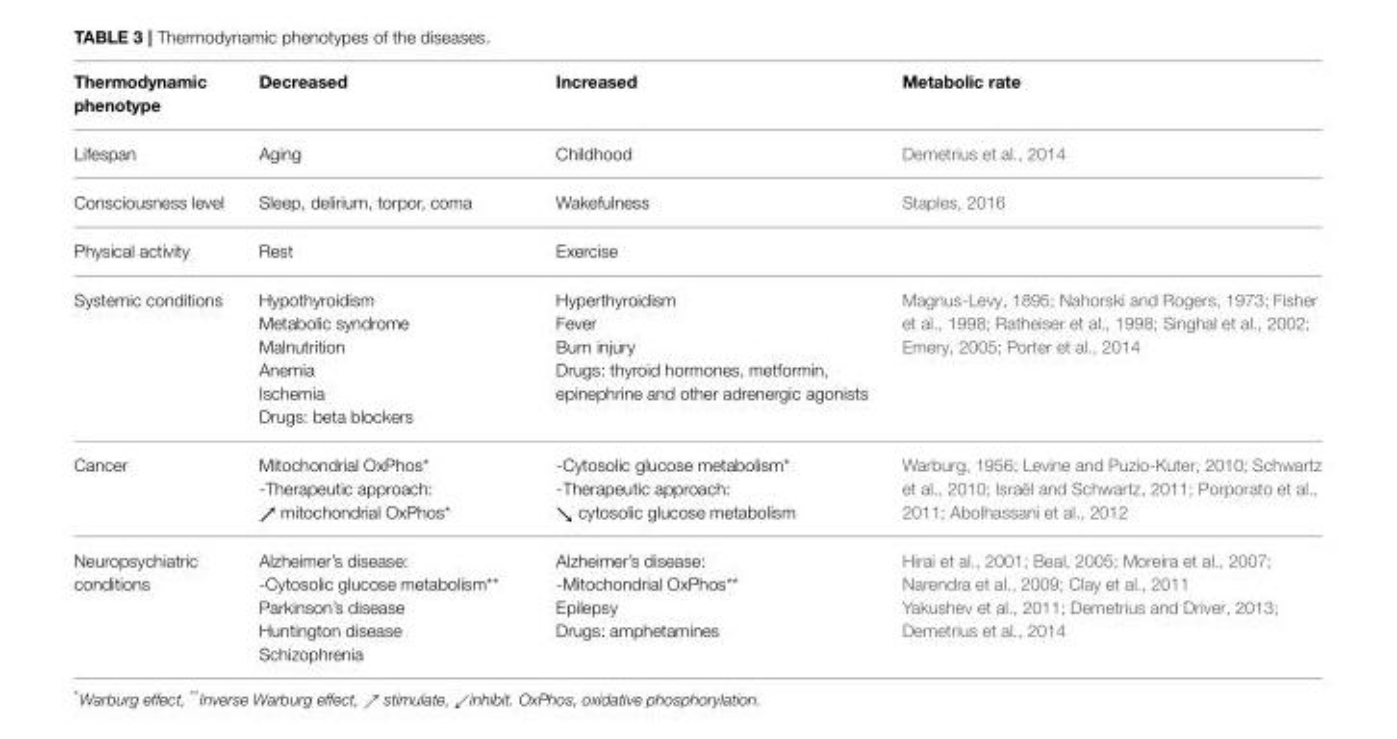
<table><thead><tr><td>Thermodynamic phenotype</td><td>Decreased</td><td>Increased</td><td>Metabolic rate</td></tr></thead><tbody><tr><td>Lifespan</td><td>Aging</td><td>Childhood</td><td>Demetrius et al., 2014</td></tr><tr><td>Consciousness level</td><td>Sleep, delirium, torpor, coma</td><td>Wakefulness</td><td>Staples, 2016</td></tr><tr><td>Physical activity</td><td>Rest</td><td>Exercise</td><td></td></tr><tr><td>Systemic conditions</td><td>Hypothyroidism Metabolic syndrome Malnutrition Anemia Ischemia Drugs: beta blockers</td><td>Hyperthyroidism Fever Burn injury Drugs: thyroid hormones, metformin, epinephrine and other adrenergic agonists</td><td>Magnus-Levy, 1895; Nahorski and Rogers, 1973; Fisher et al., 1998; Ratheiser et al., 1998; Singhal et al., 2002; Emery, 2005; Porter et al., 2014</td></tr><tr><td>Cancer</td><td>Mitochondrial OxPhos* -Therapeutic approach: ր mitochondrial OxPhos*</td><td>-Cytosolic glucose metabolism* -Therapeutic approach: ց cytosolic glucose metabolism</td><td>Warburg, 1956; Levine and Puzio-Kuter, 2010; Schwartz et al., 2010; Israël and Schwartz, 2011; Porporato et al., 2011; Abolhassani et al., 2012</td></tr><tr><td>Neuropsychiatric conditions</td><td>Alzheimer’s disease: -Cytosolic glucose metabolism** Parkinson’s disease Huntington disease Schizophrenia</td><td>Alzheimer’s disease: -Mitochondrial OxPhos** Epilepsy Drugs: amphetamines</td><td>Hirai et al., 2001; Beal, 2005; Moreira et al., 2007; Narendra et al., 2009; Clay et al., 2011 Yakushev et al., 2011; Demetrius and Driver, 2013; Demetrius et al., 2014</td></tr></tbody></table>